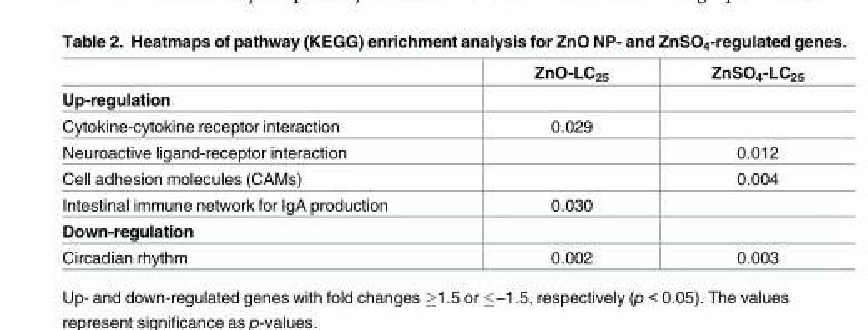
<table><thead><tr><td></td><td>ZnO-LC<sub>25</sub></td><td>ZnSO<sub>4</sub>-LC<sub>25</sub></td></tr></thead><tbody><tr><td colspan="3">Up-regulation</td></tr><tr><td>Cytokine-cytokine receptor interaction</td><td>0.029</td><td></td></tr><tr><td>Neuroactive ligand-receptor interaction</td><td></td><td>0.012</td></tr><tr><td>Cell adhesion molecules (CAMs)</td><td></td><td>0.004</td></tr><tr><td>Intestinal immune network for IgA production</td><td>0.030</td><td></td></tr><tr><td colspan="3">Down-regulation</td></tr><tr><td>Circadian rhythm</td><td>0.002</td><td>0.003</td></tr></tbody></table>